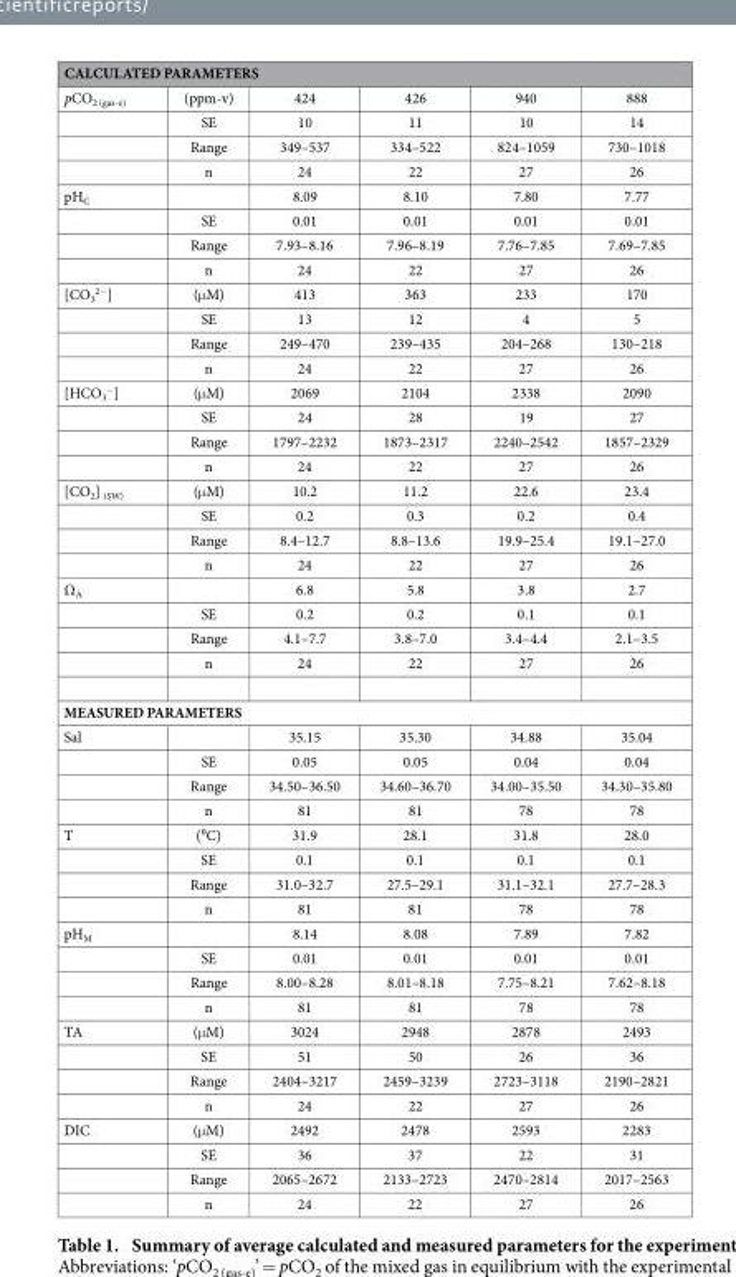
<table><thead><tr><td colspan="6">CALCULATED PARAMETERS</td></tr><tr><td>pCO<sub>2 (gas-e)</sub></td><td>(ppm-v)</td><td>424</td><td>426</td><td>940</td><td>888</td></tr></thead><tbody><tr><td></td><td>SE</td><td>10</td><td>11</td><td>10</td><td>14</td></tr><tr><td></td><td>Range</td><td>349–537</td><td>334–522</td><td>824–1059</td><td>730–1018</td></tr><tr><td></td><td>n</td><td>24</td><td>22</td><td>27</td><td>26</td></tr><tr><td rowspan="4">pH<sub>C</sub></td><td></td><td>8.09</td><td>8.10</td><td>7.80</td><td>7.77</td></tr><tr><td>SE</td><td>0.01</td><td>0.01</td><td>0.01</td><td>0.01</td></tr><tr><td>Range</td><td>7.93–8.16</td><td>7.96–8.19</td><td>7.76–7.85</td><td>7.69–7.85</td></tr><tr><td>n</td><td>24</td><td>22</td><td>27</td><td>26</td></tr><tr><td rowspan="4">[CO<sub>3</sub> <sup>2−</sup>]</td><td>(μ M)</td><td>413</td><td>363</td><td>233</td><td>170</td></tr><tr><td>SE</td><td>13</td><td>12</td><td>4</td><td>5</td></tr><tr><td>Range</td><td>249–470</td><td>239–435</td><td>204–268</td><td>130–218</td></tr><tr><td>n</td><td>24</td><td>22</td><td>27</td><td>26</td></tr><tr><td rowspan="4">[HCO<sub>3</sub> <sup>−</sup>]</td><td>(μ M)</td><td>2069</td><td>2104</td><td>2338</td><td>2090</td></tr><tr><td>SE</td><td>24</td><td>28</td><td>19</td><td>27</td></tr><tr><td>Range</td><td>1797–2232</td><td>1873–2317</td><td>2240–2542</td><td>1857–2329</td></tr><tr><td>n</td><td>24</td><td>22</td><td>27</td><td>26</td></tr><tr><td rowspan="4">[CO<sub>2</sub>] <sub>(SW)</sub></td><td>(μ M)</td><td>10.2</td><td>11.2</td><td>22.6</td><td>23.4</td></tr><tr><td>SE</td><td>0.2</td><td>0.3</td><td>0.2</td><td>0.4</td></tr><tr><td>Range</td><td>8.4–12.7</td><td>8.8–13.6</td><td>19.9–25.4</td><td>19.1–27.0</td></tr><tr><td>n</td><td>24</td><td>22</td><td>27</td><td>26</td></tr><tr><td rowspan="4">Ω<sub>A</sub></td><td></td><td>6.8</td><td>5.8</td><td>3.8</td><td>2.7</td></tr><tr><td>SE</td><td>0.2</td><td>0.2</td><td>0.1</td><td>0.1</td></tr><tr><td>Range</td><td>4.1–7.7</td><td>3.8–7.0</td><td>3.4–4.4</td><td>2.1–3.5</td></tr><tr><td>n</td><td>24</td><td>22</td><td>27</td><td>26</td></tr><tr><td colspan="6">MEASURED PARAMETERS</td></tr><tr><td rowspan="4">Sal</td><td></td><td>35.15</td><td>35.30</td><td>34.88</td><td>35.04</td></tr><tr><td>SE</td><td>0.05</td><td>0.05</td><td>0.04</td><td>0.04</td></tr><tr><td>Range</td><td>34.50–36.50</td><td>34.60–36.70</td><td>34.00–35.50</td><td>34.30–35.80</td></tr><tr><td>n</td><td>81</td><td>81</td><td>78</td><td>78</td></tr><tr><td rowspan="4">T</td><td>(⁰C)</td><td>31.9</td><td>28.1</td><td>31.8</td><td>28.0</td></tr><tr><td>SE</td><td>0.1</td><td>0.1</td><td>0.1</td><td>0.1</td></tr><tr><td>Range</td><td>31.0–32.7</td><td>27.5–29.1</td><td>31.1–32.1</td><td>27.7–28.3</td></tr><tr><td>n</td><td>81</td><td>81</td><td>78</td><td>78</td></tr><tr><td rowspan="4">pH<sub>M</sub></td><td></td><td>8.14</td><td>8.08</td><td>7.89</td><td>7.82</td></tr><tr><td>SE</td><td>0.01</td><td>0.01</td><td>0.01</td><td>0.01</td></tr><tr><td>Range</td><td>8.00–8.28</td><td>8.01–8.18</td><td>7.75–8.21</td><td>7.62–8.18</td></tr><tr><td>n</td><td>81</td><td>81</td><td>78</td><td>78</td></tr><tr><td rowspan="4">TA</td><td>(μ M)</td><td>3024</td><td>2948</td><td>2878</td><td>2493</td></tr><tr><td>SE</td><td>51</td><td>50</td><td>26</td><td>36</td></tr><tr><td>Range</td><td>2404–3217</td><td>2459–3239</td><td>2723–3118</td><td>2190–2821</td></tr><tr><td>n</td><td>24</td><td>22</td><td>27</td><td>26</td></tr><tr><td rowspan="4">DIC</td><td>(μ M)</td><td>2492</td><td>2478</td><td>2593</td><td>2283</td></tr><tr><td>SE</td><td>36</td><td>37</td><td>22</td><td>31</td></tr><tr><td>Range</td><td>2065–2672</td><td>2133–2723</td><td>2470–2814</td><td>2017–2563</td></tr><tr><td>n</td><td>24</td><td>22</td><td>27</td><td>26</td></tr></tbody></table>